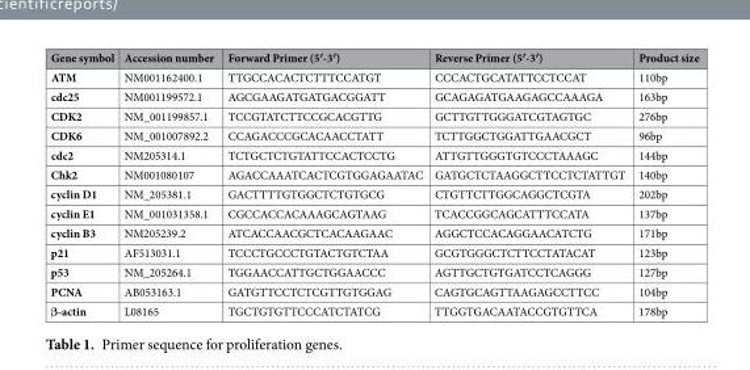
<table><thead><tr><td>Gene symbol</td><td>Accession number</td><td>Forward Primer (5′-3′)</td><td>Reverse Primer (5′-3′)</td><td>Product size</td></tr></thead><tbody><tr><td>ATM</td><td>NM001162400.1</td><td>TTGCCACACTCTTTCCATGT</td><td>CCCACTGCATATTCCTCCAT</td><td>110bp</td></tr><tr><td>cdc25</td><td>NM001199572.1</td><td>AGCGAAGATGATGACGGATT</td><td>GCAGAGATGAAGAGCCAAAGA</td><td>163bp</td></tr><tr><td>CDK2</td><td>NM_001199857.1</td><td>TCCGTATCTTCCGCACGTTG</td><td>GCTTGTTGGGATCGTAGTGC</td><td>276bp</td></tr><tr><td>CDK6</td><td>NM_001007892.2</td><td>CCAGACCCGCACAACCTATT</td><td>TCTTGGCTGGATTGAACGCT</td><td>96bp</td></tr><tr><td>cdc2</td><td>NM205314.1</td><td>TCTGCTCTGTATTCCACTCCTG</td><td>ATTGTTGGGTGTCCCTAAAGC</td><td>144bp</td></tr><tr><td>Chk2</td><td>NM001080107</td><td>AGACCAAATCACTCGTGGAGAATAC</td><td>GATGCTCTAAGGCTTCCTCTATTGT</td><td>140bp</td></tr><tr><td>cyclin D1</td><td>NM_205381.1</td><td>GACTTTTGTGGCTCTGTGCG</td><td>CTGTTCTTGGCAGGCTCGTA</td><td>202bp</td></tr><tr><td>cyclin E1</td><td>NM_001031358.1</td><td>CGCCACCACAAAGCAGTAAG</td><td>TCACCGGCAGCATTTCCATA</td><td>137bp</td></tr><tr><td>cyclin B3</td><td>NM205239.2</td><td>ATCACCAACGCTCACAAGAAC</td><td>AGGCTCCACAGGAACATCTG</td><td>171bp</td></tr><tr><td>p21</td><td>AF513031.1</td><td>TCCCTGCCCTGTACTGTCTAA</td><td>GCGTGGGCTCTTCCTATACAT</td><td>123bp</td></tr><tr><td>p53</td><td>NM_205264.1</td><td>TGGAACCATTGCTGGAACCC</td><td>AGTTGCTGTGATCCTCAGGG</td><td>127bp</td></tr><tr><td>PCNA</td><td>AB053163.1</td><td>GATGTTCCTCTCGTTGTGGAG</td><td>CAGTGCAGTTAAGAGCCTTCC</td><td>104bp</td></tr><tr><td>β-actin</td><td>L08165</td><td>TGCTGTGTTCCCATCTATCG</td><td>TTGGTGACAATACCGTGTTCA</td><td>178bp</td></tr></tbody></table>